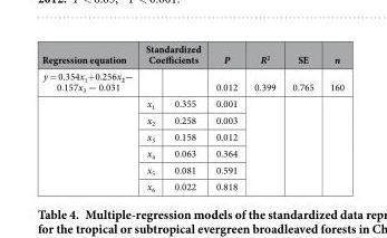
<table><thead><tr><td rowspan="2">Regression equation y = 0.354x1+ 0.256x2− 0.157x3 − 0.031</td><td colspan="2">Standardized Coefficients</td><td rowspan="2">P 0.012</td><td rowspan="2">R<sup>2</sup> 0.399</td><td rowspan="2">SE 0.765</td><td rowspan="2">n 160</td></tr><tr><td></td><td></td></tr></thead><tbody><tr><td rowspan="6"></td><td>x<sub>1</sub></td><td>0.355</td><td>0.001</td><td rowspan="6"></td><td rowspan="6"></td><td rowspan="6"></td></tr><tr><td>x<sub>2</sub></td><td>0.258</td><td>0.003</td></tr><tr><td>x<sub>3</sub></td><td>0.158</td><td>0.012</td></tr><tr><td>x<sub>4</sub></td><td>0.063</td><td>0.364</td></tr><tr><td>x<sub>5</sub></td><td>0.081</td><td>0.591</td></tr><tr><td>x<sub>6</sub></td><td>0.022</td><td>0.818</td></tr></tbody></table>